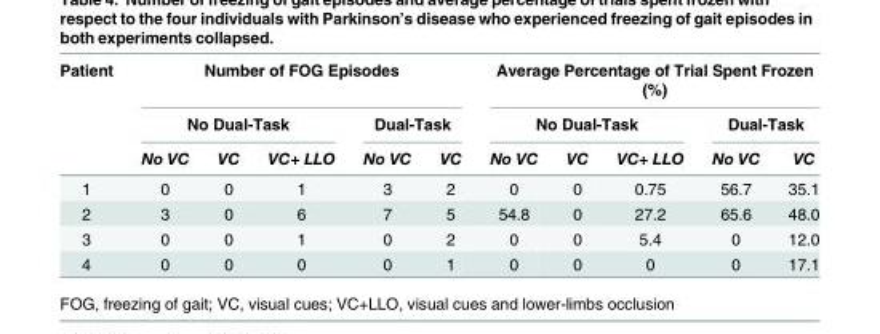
<table><thead><tr><td rowspan="3">Patient</td><td colspan="5">Number of FOG Episodes</td><td colspan="5">Average Percentage of Trial Spent Frozen (%)</td></tr><tr><td colspan="3">No Dual-Task</td><td colspan="2">Dual-Task</td><td colspan="3">No Dual-Task</td><td colspan="2">Dual-Task</td></tr><tr><td>No VC</td><td>VC</td><td>VC+ LLO</td><td>No VC</td><td>VC</td><td>No VC</td><td>VC</td><td>VC+ LLO</td><td>No VC</td><td>VC</td></tr></thead><tbody><tr><td>1</td><td>0</td><td>0</td><td>1</td><td>3</td><td>2</td><td>0</td><td>0</td><td>0.75</td><td>56.7</td><td>35.1</td></tr><tr><td>2</td><td>3</td><td>0</td><td>6</td><td>7</td><td>5</td><td>54.8</td><td>0</td><td>27.2</td><td>65.6</td><td>48.0</td></tr><tr><td>3</td><td>0</td><td>0</td><td>1</td><td>0</td><td>2</td><td>0</td><td>0</td><td>5.4</td><td>0</td><td>12.0</td></tr><tr><td>4</td><td>0</td><td>0</td><td>0</td><td>0</td><td>1</td><td>0</td><td>0</td><td>0</td><td>0</td><td>17.1</td></tr></tbody></table>